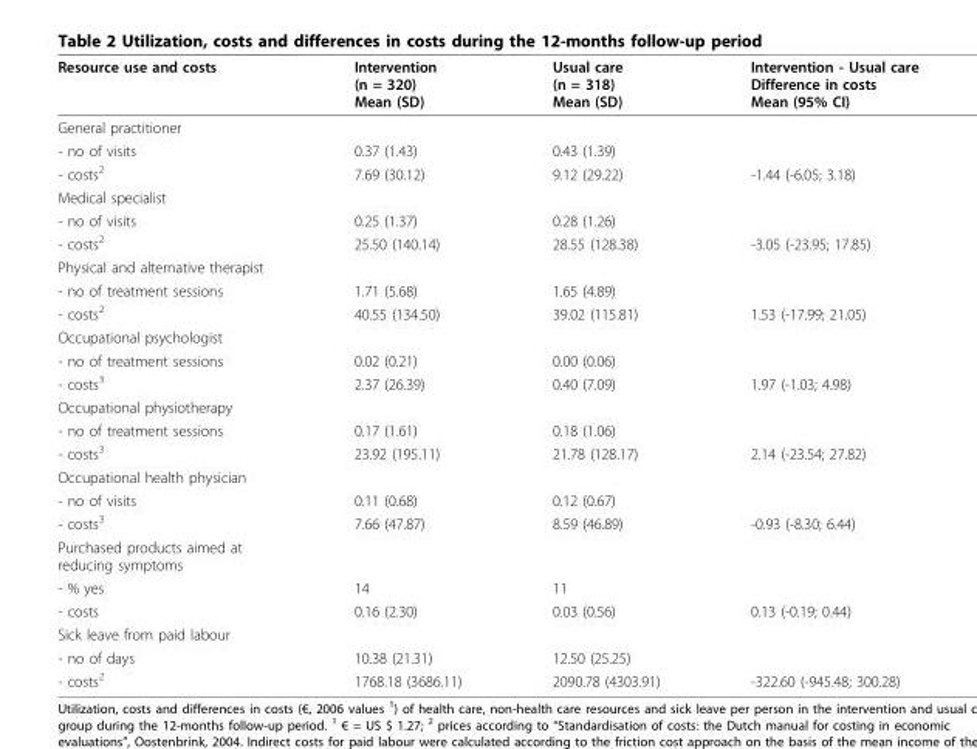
<table><thead><tr><td>Resource use and costs</td><td>Intervention (n = 320) Mean (SD)</td><td>Usual care (n = 318) Mean (SD)</td><td>Intervention - Usual care Difference in costs Mean (95% CI)</td></tr></thead><tbody><tr><td colspan="4">General practitioner</td></tr><tr><td>- no of visits</td><td>0.37 (1.43)</td><td>0.43 (1.39)</td><td></td></tr><tr><td>- costs<sup>2</sup></td><td>7.69 (30.12)</td><td>9.12 (29.22)</td><td>-1.44 (-6.05; 3.18)</td></tr><tr><td colspan="4">Medical specialist</td></tr><tr><td>- no of visits</td><td>0.25 (1.37)</td><td>0.28 (1.26)</td><td></td></tr><tr><td>- costs<sup>2</sup></td><td>25.50 (140.14)</td><td>28.55 (128.38)</td><td>-3.05 (-23.95; 17.85)</td></tr><tr><td colspan="4">Physical and alternative therapist</td></tr><tr><td>- no of treatment sessions</td><td>1.71 (5.68)</td><td>1.65 (4.89)</td><td></td></tr><tr><td>- costs<sup>2</sup></td><td>40.55 (134.50)</td><td>39.02 (115.81)</td><td>1.53 (-17.99; 21.05)</td></tr><tr><td colspan="4">Occupational psychologist</td></tr><tr><td>- no of treatment sessions</td><td>0.02 (0.21)</td><td>0.00 (0.06)</td><td></td></tr><tr><td>- costs<sup>3</sup></td><td>2.37 (26.39)</td><td>0.40 (7.09)</td><td>1.97 (-1.03; 4.98)</td></tr><tr><td colspan="4">Occupational physiotherapy</td></tr><tr><td>- no of treatment sessions</td><td>0.17 (1.61)</td><td>0.18 (1.06)</td><td></td></tr><tr><td>- costs<sup>3</sup></td><td>23.92 (195.11)</td><td>21.78 (128.17)</td><td>2.14 (-23.54; 27.82)</td></tr><tr><td colspan="4">Occupational health physician</td></tr><tr><td>- no of visits</td><td>0.11 (0.68)</td><td>0.12 (0.67)</td><td></td></tr><tr><td>- costs<sup>3</sup></td><td>7.66 (47.87)</td><td>8.59 (46.89)</td><td>-0.93 (-8.30; 6.44)</td></tr><tr><td colspan="4">Purchased products aimed at reducing symptoms</td></tr><tr><td>- % yes</td><td>14</td><td>11</td><td></td></tr><tr><td>- costs</td><td>0.16 (2.30)</td><td>0.03 (0.56)</td><td>0.13 (-0.19; 0.44)</td></tr><tr><td colspan="4">Sick leave from paid labour</td></tr><tr><td>- no of days</td><td>10.38 (21.31)</td><td>12.50 (25.25)</td><td></td></tr><tr><td>- costs<sup>2</sup></td><td>1768.18 (3686.11)</td><td>2090.78 (4303.91)</td><td>-322.60 (-945.48; 300.28)</td></tr></tbody></table>